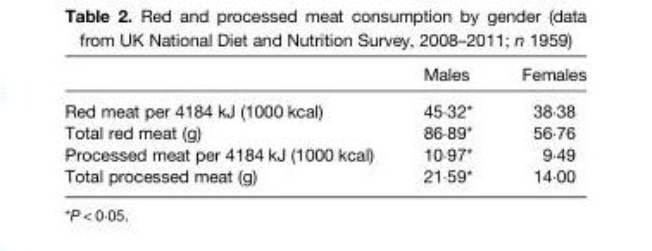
<table><thead><tr><td></td><td>Males</td><td>Females</td></tr></thead><tbody><tr><td>Red meat per 4184 kJ (1000 kcal)</td><td>45·32*</td><td>38·38</td></tr><tr><td>Total red meat (g)</td><td>86·89*</td><td>56·76</td></tr><tr><td>Processed meat per 4184 kJ (1000 kcal)</td><td>10·97*</td><td>9·49</td></tr><tr><td>Total processed meat (g)</td><td>21·59*</td><td>14·00</td></tr></tbody></table>